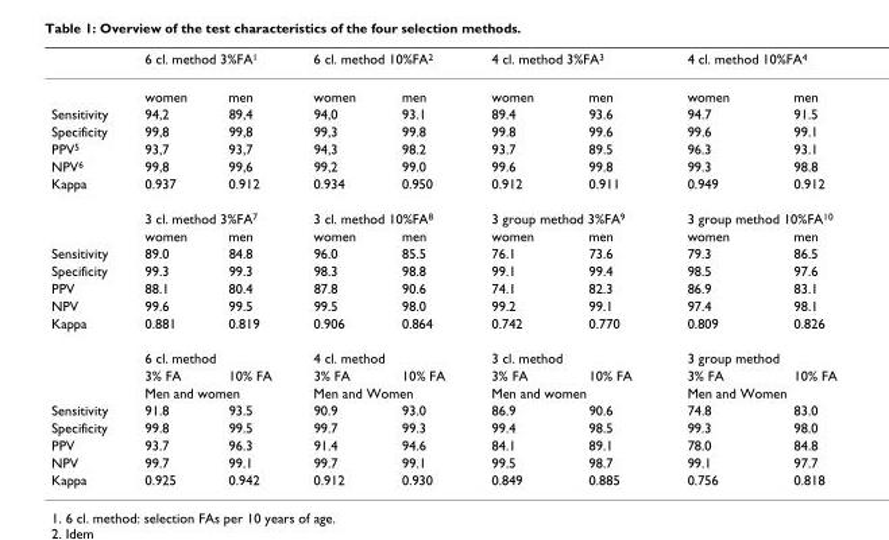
<table><thead><tr><td rowspan="2"></td><td colspan="2">6 cl. method 3%FA<sup>1</sup></td><td colspan="2">6 cl. method 10%FA<sup>2</sup></td><td colspan="2">4 cl. method 3%FA<sup>3</sup></td><td colspan="2">4 cl. method 10%FA<sup>4</sup></td></tr><tr><td>women</td><td>men</td><td>women</td><td>men</td><td>women</td><td>men</td><td>women</td><td>men</td></tr></thead><tbody><tr><td>Sensitivity</td><td>94,2</td><td>89,4</td><td>94,0</td><td>93.1</td><td>89.4</td><td>93.6</td><td>94.7</td><td>91.5</td></tr><tr><td>Specificity</td><td>99,8</td><td>99,8</td><td>99,3</td><td>99.8</td><td>99.8</td><td>99.6</td><td>99.6</td><td>99.1</td></tr><tr><td>PPV<sup>5</sup></td><td>93,7</td><td>93,7</td><td>94,3</td><td>98.2</td><td>93.7</td><td>89.5</td><td>96.3</td><td>93.1</td></tr><tr><td>NPV<sup>6</sup></td><td>99,8</td><td>99,6</td><td>99,2</td><td>99.0</td><td>99.6</td><td>99.8</td><td>99.3</td><td>98.8</td></tr><tr><td rowspan="3">Kappa</td><td>0.937</td><td>0.912</td><td>0.934</td><td>0.950</td><td>0.912</td><td>0.911</td><td>0.949</td><td>0.912</td></tr><tr><td colspan="2">3 cl. method 3%FA<sup>7</sup></td><td colspan="2">3 cl. method 10%FA<sup>8</sup></td><td colspan="2">3 group method 3%FA<sup>9</sup></td><td colspan="2">3 group method 10%FA<sup>10</sup></td></tr><tr><td>women</td><td>men</td><td>women</td><td>men</td><td>women</td><td>men</td><td>women</td><td>men</td></tr><tr><td>Sensitivity</td><td>89.0</td><td>84.8</td><td>96.0</td><td>85.5</td><td>76.1</td><td>73.6</td><td>79.3</td><td>86.5</td></tr><tr><td>Specificity</td><td>99.3</td><td>99.3</td><td>98.3</td><td>98.8</td><td>99.1</td><td>99.4</td><td>98.5</td><td>97.6</td></tr><tr><td>PPV</td><td>88.1</td><td>80.4</td><td>87.8</td><td>90.6</td><td>74.1</td><td>82.3</td><td>86.9</td><td>83.1</td></tr><tr><td>NPV</td><td>99.6</td><td>99.5</td><td>99.5</td><td>98.0</td><td>99.2</td><td>99.1</td><td>97.4</td><td>98.1</td></tr><tr><td rowspan="4">Kappa</td><td>0.881</td><td>0.819</td><td>0.906</td><td>0.864</td><td>0.742</td><td>0.770</td><td>0.809</td><td>0.826</td></tr><tr><td colspan="2">6 cl. method</td><td colspan="2">4 cl. method</td><td colspan="2">3 cl. method</td><td colspan="2">3 group method</td></tr><tr><td>3% FA</td><td>10% FA</td><td>3% FA</td><td>10% FA</td><td>3% FA</td><td>10% FA</td><td>3% FA</td><td>10% FA</td></tr><tr><td colspan="2">Men and women</td><td colspan="2">Men and Women</td><td colspan="2">Men and women</td><td colspan="2">Men and Women</td></tr><tr><td>Sensitivity</td><td>91.8</td><td>93.5</td><td>90.9</td><td>93.0</td><td>86.9</td><td>90.6</td><td>74.8</td><td>83.0</td></tr><tr><td>Specificity</td><td>99.8</td><td>99.5</td><td>99.7</td><td>99.3</td><td>99.4</td><td>98.5</td><td>99.3</td><td>98.0</td></tr><tr><td>PPV</td><td>93.7</td><td>96.3</td><td>91.4</td><td>94.6</td><td>84.1</td><td>89.1</td><td>78.0</td><td>84.8</td></tr><tr><td>NPV</td><td>99.7</td><td>99.1</td><td>99.7</td><td>99.1</td><td>99.5</td><td>98.7</td><td>99.1</td><td>97.7</td></tr><tr><td>Kappa</td><td>0.925</td><td>0.942</td><td>0.912</td><td>0.930</td><td>0.849</td><td>0.885</td><td>0.756</td><td>0.818</td></tr></tbody></table>